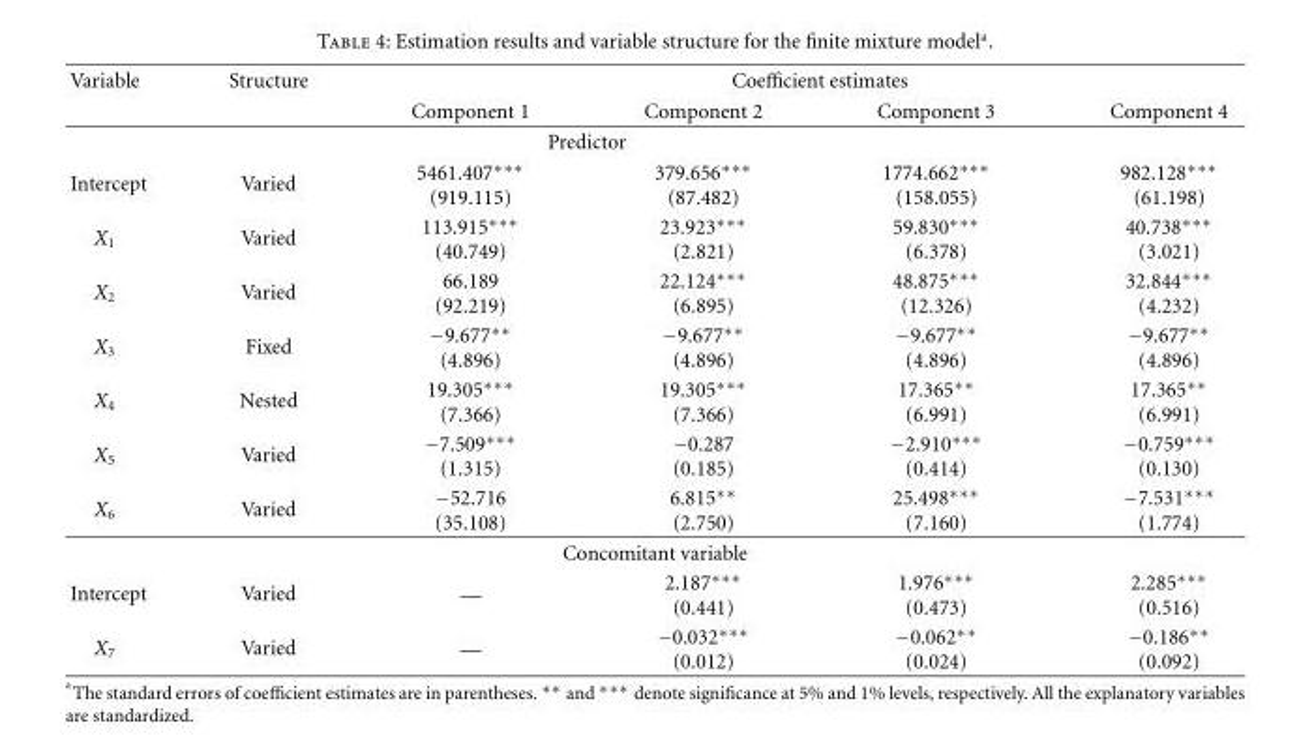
<table><thead><tr><td rowspan="2">Variable</td><td rowspan="2">Structure</td><td colspan="4">Coefficient estimates</td></tr><tr><td>Component 1</td><td>Component 2</td><td>Component 3</td><td>Component 4</td></tr></thead><tbody><tr><td></td><td></td><td colspan="2">Predictor</td><td></td><td></td></tr><tr><td>Intercept</td><td>Varied</td><td>5461.407∗∗∗ (919.115)</td><td>379.656∗∗∗ (87.482)</td><td>1774.662∗∗∗ (158.055)</td><td>982.128∗∗∗ (61.198)</td></tr><tr><td>X<sub>1</sub></td><td>Varied</td><td>113.915∗∗∗ (40.749)</td><td>23.923∗∗∗ (2.821)</td><td>59.830∗∗∗ (6.378)</td><td>40.738∗∗∗ (3.021)</td></tr><tr><td>X<sub>2</sub></td><td>Varied</td><td>66.189 (92.219)</td><td>22.124∗∗∗ (6.895)</td><td>48.875∗∗∗ (12.326)</td><td>32.844∗∗∗ (4.232)</td></tr><tr><td>X<sub>3</sub></td><td>Fixed</td><td>−9.677∗∗ (4.896)</td><td>−9.677∗∗ (4.896)</td><td>−9.677∗∗ (4.896)</td><td>−9.677∗∗ (4.896)</td></tr><tr><td>X<sub>4</sub></td><td>Nested</td><td>19.305∗∗∗ (7.366)</td><td>19.305∗∗∗ (7.366)</td><td>17.365∗∗ (6.991)</td><td>17.365∗∗ (6.991)</td></tr><tr><td>X<sub>5</sub></td><td>Varied</td><td>−7.509∗∗∗ (1.315)</td><td>−0.287 (0.185)</td><td>−2.910∗∗∗ (0.414)</td><td>−0.759∗∗∗ (0.130)</td></tr><tr><td>X<sub>6</sub></td><td>Varied</td><td>−52.716 (35.108)</td><td>6.815∗∗ (2.750)</td><td>25.498∗∗∗ (7.160)</td><td>−7.531∗∗∗ (1.774)</td></tr><tr><td colspan="6">Concomitant variable</td></tr><tr><td>Intercept</td><td>Varied</td><td>—</td><td>2.187∗∗∗ (0.441)</td><td>1.976∗∗∗ (0.473)</td><td>2.285∗∗∗ (0.516)</td></tr><tr><td>X<sub>7</sub></td><td>Varied</td><td>—</td><td>−0.032∗∗∗ (0.012)</td><td>−0.062∗∗ (0.024)</td><td>−0.186∗∗ (0.092)</td></tr></tbody></table>